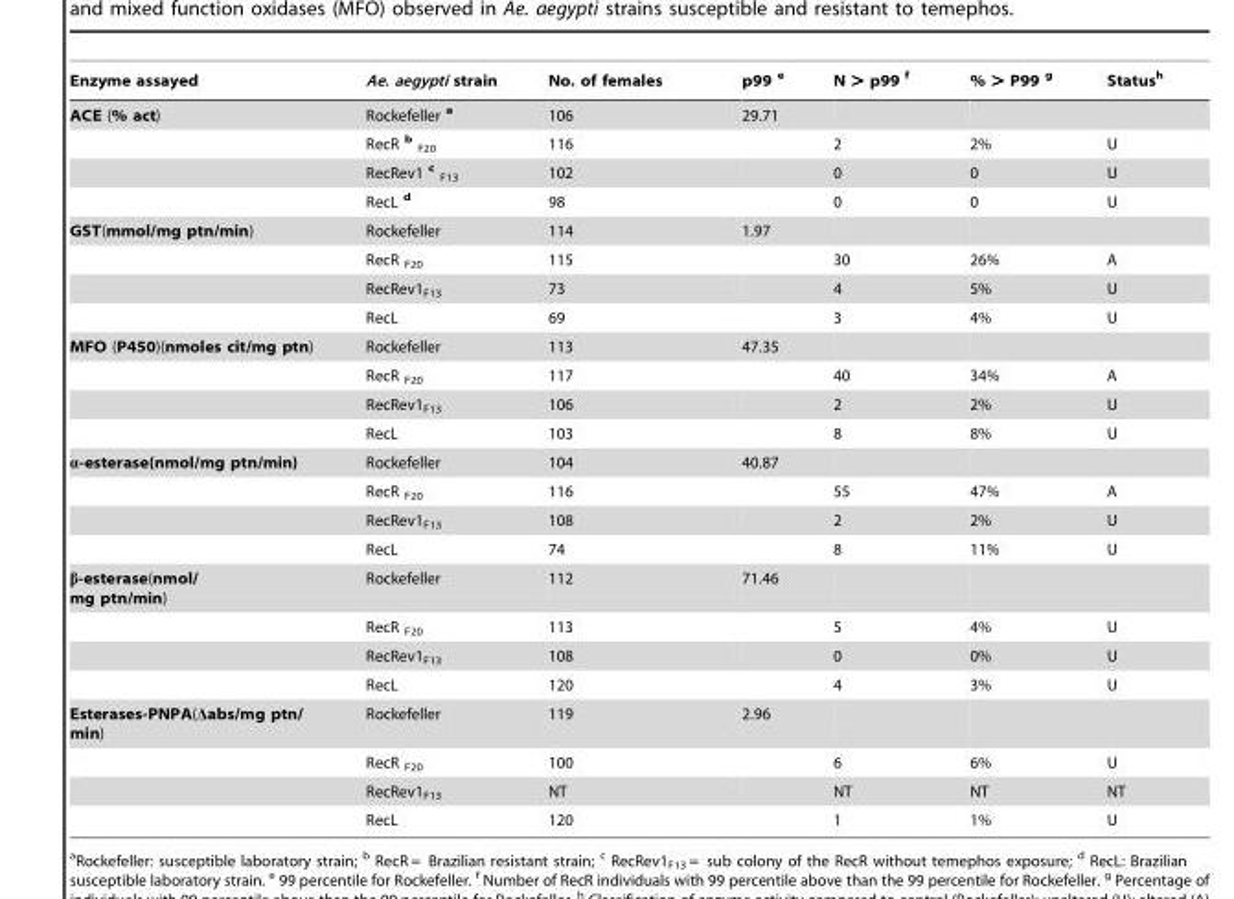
<table><thead><tr><td>Enzyme assayed</td><td>Ae. aegypti strain</td><td>No. of females</td><td>p99 <sup>e</sup></td><td>N &gt; p99 <sup>f</sup></td><td>% &gt; P99 <sup>g</sup></td><td>Status<sup>h</sup></td></tr></thead><tbody><tr><td rowspan="4">ACE (% act)</td><td>Rockefeller a</td><td>106</td><td>29.71</td><td></td><td></td><td></td></tr><tr><td>RecR <sup>b</sup> <sub>F20</sub></td><td>116</td><td></td><td>2</td><td>2%</td><td>U</td></tr><tr><td>RecRev1 <sup>c</sup> <sub>F13</sub></td><td>102</td><td></td><td>0</td><td>0</td><td>U</td></tr><tr><td>RecL <sup>d</sup></td><td>98</td><td></td><td>0</td><td>0</td><td>U</td></tr><tr><td rowspan="4">GST(mmol/mg ptn/min)</td><td>Rockefeller</td><td>114</td><td>1.97</td><td></td><td></td><td></td></tr><tr><td>RecR <sub>F20</sub></td><td>115</td><td></td><td>30</td><td>26%</td><td>A</td></tr><tr><td>RecRev1<sub>F13</sub></td><td>73</td><td></td><td>4</td><td>5%</td><td>U</td></tr><tr><td>RecL</td><td>69</td><td></td><td>3</td><td>4%</td><td>U</td></tr><tr><td rowspan="4">MFO (P450)(nmoles cit/mg ptn)</td><td>Rockefeller</td><td>113</td><td>47.35</td><td></td><td></td><td></td></tr><tr><td>RecR <sub>F20</sub></td><td>117</td><td></td><td>40</td><td>34%</td><td>A</td></tr><tr><td>RecRev1<sub>F13</sub></td><td>106</td><td></td><td>2</td><td>2%</td><td>U</td></tr><tr><td>RecL</td><td>103</td><td></td><td>8</td><td>8%</td><td>U</td></tr><tr><td rowspan="4">α-esterase(nmol/mg ptn/min)</td><td>Rockefeller</td><td>104</td><td>40.87</td><td></td><td></td><td></td></tr><tr><td>RecR <sub>F20</sub></td><td>116</td><td></td><td>55</td><td>47%</td><td>A</td></tr><tr><td>RecRev1<sub>F13</sub></td><td>108</td><td></td><td>2</td><td>2%</td><td>U</td></tr><tr><td>RecL</td><td>74</td><td></td><td>8</td><td>11%</td><td>U</td></tr><tr><td rowspan="4">β-esterase(nmol/ mg ptn/min)</td><td>Rockefeller</td><td>112</td><td>71.46</td><td></td><td></td><td></td></tr><tr><td>RecR <sub>F20</sub></td><td>113</td><td></td><td>5</td><td>4%</td><td>U</td></tr><tr><td>RecRev1<sub>F13</sub></td><td>108</td><td></td><td>0</td><td>0%</td><td>U</td></tr><tr><td>RecL</td><td>120</td><td></td><td>4</td><td>3%</td><td>U</td></tr><tr><td rowspan="4">Esterases-PNPA(Δabs/mg ptn/ min)</td><td>Rockefeller</td><td>119</td><td>2.96</td><td></td><td></td><td></td></tr><tr><td>RecR <sub>F20</sub></td><td>100</td><td></td><td>6</td><td>6%</td><td>U</td></tr><tr><td>RecRev1<sub>F13</sub></td><td>NT</td><td></td><td>NT</td><td>NT</td><td>NT</td></tr><tr><td>RecL</td><td>120</td><td></td><td>1</td><td>1%</td><td>U</td></tr></tbody></table>